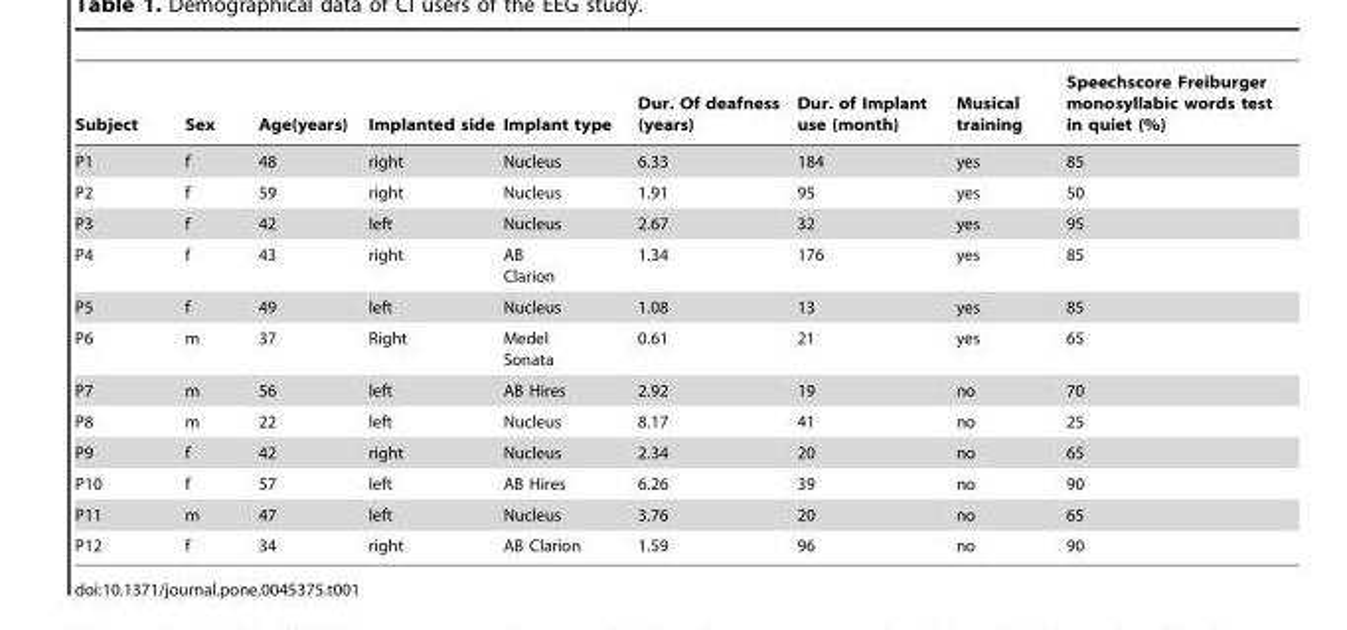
<table><thead><tr><td>Subject</td><td>Sex</td><td>Age(years)</td><td>Implanted side</td><td>Implant type</td><td>Dur. Of deafness (years)</td><td>Dur. of Implant use (month)</td><td>Musical training</td><td>Speechscore Freiburger monosyllabic words test in quiet (%)</td></tr></thead><tbody><tr><td>P1</td><td>f</td><td>48</td><td>right</td><td>Nucleus</td><td>6.33</td><td>184</td><td>yes</td><td>85</td></tr><tr><td>P2</td><td>f</td><td>59</td><td>right</td><td>Nucleus</td><td>1.91</td><td>95</td><td>yes</td><td>50</td></tr><tr><td>P3</td><td>f</td><td>42</td><td>left</td><td>Nucleus</td><td>2.67</td><td>32</td><td>yes</td><td>95</td></tr><tr><td>P4</td><td>f</td><td>43</td><td>right</td><td>AB Clarion</td><td>1.34</td><td>176</td><td>yes</td><td>85</td></tr><tr><td>P5</td><td>f</td><td>49</td><td>left</td><td>Nucleus</td><td>1.08</td><td>13</td><td>yes</td><td>85</td></tr><tr><td>P6</td><td>m</td><td>37</td><td>Right</td><td>Medel Sonata</td><td>0.61</td><td>21</td><td>yes</td><td>65</td></tr><tr><td>P7</td><td>m</td><td>56</td><td>left</td><td>AB Hires</td><td>2.92</td><td>19</td><td>no</td><td>70</td></tr><tr><td>P8</td><td>m</td><td>22</td><td>left</td><td>Nucleus</td><td>8.17</td><td>41</td><td>no</td><td>25</td></tr><tr><td>P9</td><td>f</td><td>42</td><td>right</td><td>Nucleus</td><td>2.34</td><td>20</td><td>no</td><td>65</td></tr><tr><td>P10</td><td>f</td><td>57</td><td>left</td><td>AB Hires</td><td>6.26</td><td>39</td><td>no</td><td>90</td></tr><tr><td>P11</td><td>m</td><td>47</td><td>left</td><td>Nucleus</td><td>3.76</td><td>20</td><td>no</td><td>65</td></tr><tr><td>P12</td><td>f</td><td>34</td><td>right</td><td>AB Clarion</td><td>1.59</td><td>96</td><td>no</td><td>90</td></tr></tbody></table>